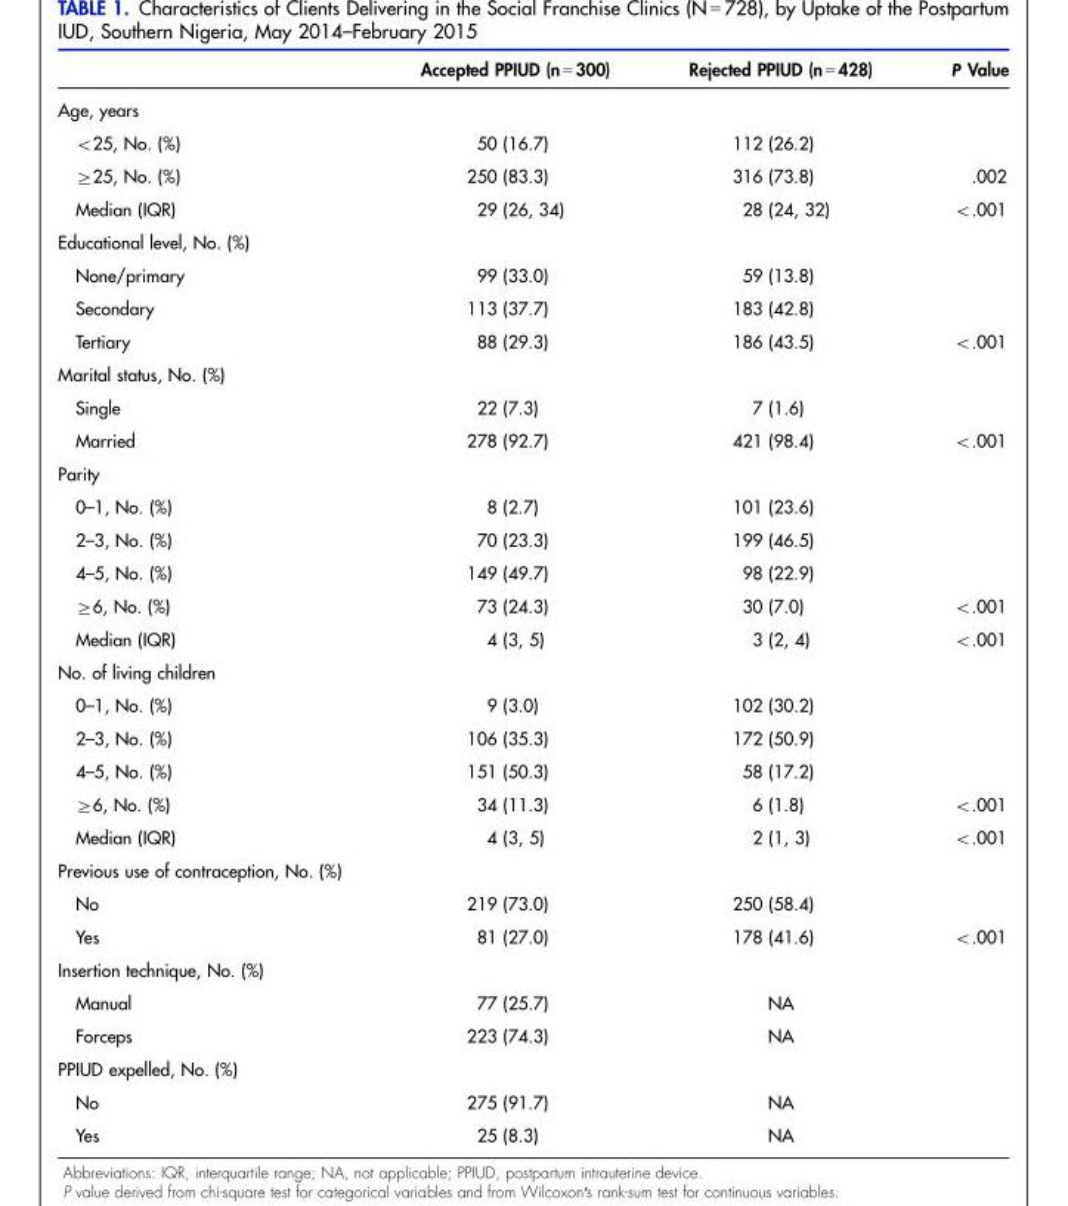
<table><thead><tr><td></td><td>Accepted PPIUD (n = 300)</td><td>Rejected PPIUD (n = 428)</td><td>P Value</td></tr></thead><tbody><tr><td colspan="4">Age, years</td></tr><tr><td>&lt;25, No. (%)</td><td>50 (16.7)</td><td>112 (26.2)</td><td></td></tr><tr><td>≥25, No. (%)</td><td>250 (83.3)</td><td>316 (73.8)</td><td>.002</td></tr><tr><td>Median (IQR)</td><td>29 (26, 34)</td><td>28 (24, 32)</td><td>&lt;.001</td></tr><tr><td colspan="4">Educational level, No. (%)</td></tr><tr><td>None/primary</td><td>99 (33.0)</td><td>59 (13.8)</td><td></td></tr><tr><td>Secondary</td><td>113 (37.7)</td><td>183 (42.8)</td><td></td></tr><tr><td>Tertiary</td><td>88 (29.3)</td><td>186 (43.5)</td><td>&lt;.001</td></tr><tr><td colspan="4">Marital status, No. (%)</td></tr><tr><td>Single</td><td>22 (7.3)</td><td>7 (1.6)</td><td></td></tr><tr><td>Married</td><td>278 (92.7)</td><td>421 (98.4)</td><td>&lt;.001</td></tr><tr><td colspan="4">Parity</td></tr><tr><td>0–1, No. (%)</td><td>8 (2.7)</td><td>101 (23.6)</td><td></td></tr><tr><td>2–3, No. (%)</td><td>70 (23.3)</td><td>199 (46.5)</td><td></td></tr><tr><td>4–5, No. (%)</td><td>149 (49.7)</td><td>98 (22.9)</td><td></td></tr><tr><td>≥6, No. (%)</td><td>73 (24.3)</td><td>30 (7.0)</td><td>&lt;.001</td></tr><tr><td>Median (IQR)</td><td>4 (3, 5)</td><td>3 (2, 4)</td><td>&lt;.001</td></tr><tr><td colspan="4">No. of living children</td></tr><tr><td>0–1, No. (%)</td><td>9 (3.0)</td><td>102 (30.2)</td><td></td></tr><tr><td>2–3, No. (%)</td><td>106 (35.3)</td><td>172 (50.9)</td><td></td></tr><tr><td>4–5, No. (%)</td><td>151 (50.3)</td><td>58 (17.2)</td><td></td></tr><tr><td>≥6, No. (%)</td><td>34 (11.3)</td><td>6 (1.8)</td><td>&lt;.001</td></tr><tr><td>Median (IQR)</td><td>4 (3, 5)</td><td>2 (1, 3)</td><td>&lt;.001</td></tr><tr><td colspan="4">Previous use of contraception, No. (%)</td></tr><tr><td>No</td><td>219 (73.0)</td><td>250 (58.4)</td><td></td></tr><tr><td>Yes</td><td>81 (27.0)</td><td>178 (41.6)</td><td>&lt;.001</td></tr><tr><td colspan="4">Insertion technique, No. (%)</td></tr><tr><td>Manual</td><td>77 (25.7)</td><td>NA</td><td></td></tr><tr><td>Forceps</td><td>223 (74.3)</td><td>NA</td><td></td></tr><tr><td colspan="4">PPIUD expelled, No. (%)</td></tr><tr><td>No</td><td>275 (91.7)</td><td>NA</td><td></td></tr><tr><td>Yes</td><td>25 (8.3)</td><td>NA</td><td></td></tr></tbody></table>